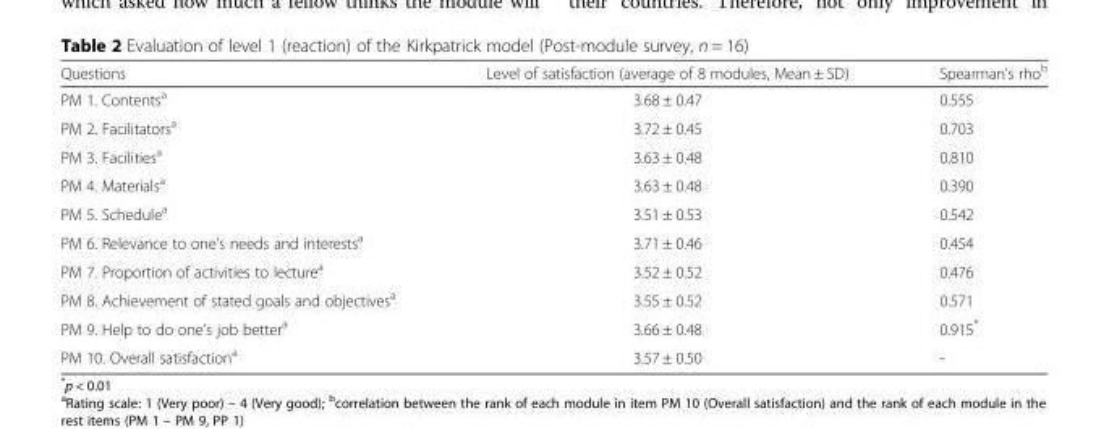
<table><thead><tr><td>Questions</td><td>Level of satisfaction (average of 8 modules, Mean ± SD)</td><td>Spearman’s rho<sup>b</sup></td></tr></thead><tbody><tr><td>PM 1. Contents<sup>a</sup></td><td>3.68 ± 0.47</td><td>0.555</td></tr><tr><td>PM 2. Facilitators<sup>a</sup></td><td>3.72 ± 0.45</td><td>0.703</td></tr><tr><td>PM 3. Facilities<sup>a</sup></td><td>3.63 ± 0.48</td><td>0.810</td></tr><tr><td>PM 4. Materials<sup>a</sup></td><td>3.63 ± 0.48</td><td>0.390</td></tr><tr><td>PM 5. Schedule<sup>a</sup></td><td>3.51 ± 0.53</td><td>0.542</td></tr><tr><td>PM 6. Relevance to one’s needs and interests<sup>a</sup></td><td>3.71 ± 0.46</td><td>0.454</td></tr><tr><td>PM 7. Proportion of activities to lecture<sup>a</sup></td><td>3.52 ± 0.52</td><td>0.476</td></tr><tr><td>PM 8. Achievement of stated goals and objectives<sup>a</sup></td><td>3.55 ± 0.52</td><td>0.571</td></tr><tr><td>PM 9. Help to do one’s job better<sup>a</sup></td><td>3.66 ± 0.48</td><td>0.915*</td></tr><tr><td>PM 10. Overall satisfaction<sup>a</sup></td><td>3.57 ± 0.50</td><td>-</td></tr></tbody></table>